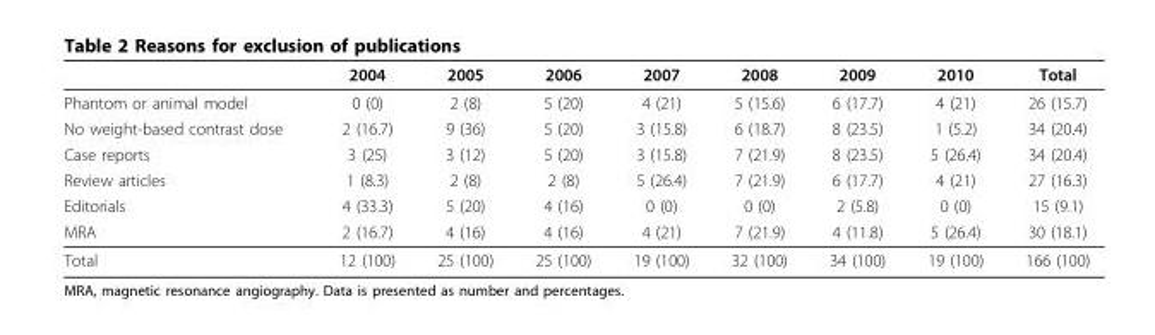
<table><thead><tr><td></td><td>2004</td><td>2005</td><td>2006</td><td>2007</td><td>2008</td><td>2009</td><td>2010</td><td>Total</td></tr></thead><tbody><tr><td>Phantom or animal model</td><td>0 (0)</td><td>2 (8)</td><td>5 (20)</td><td>4 (21)</td><td>5 (15.6)</td><td>6 (17.7)</td><td>4 (21)</td><td>26 (15.7)</td></tr><tr><td>No weight-based contrast dose</td><td>2 (16.7)</td><td>9 (36)</td><td>5 (20)</td><td>3 (15.8)</td><td>6 (18.7)</td><td>8 (23.5)</td><td>1 (5.2)</td><td>34 (20.4)</td></tr><tr><td>Case reports</td><td>3 (25)</td><td>3 (12)</td><td>5 (20)</td><td>3 (15.8)</td><td>7 (21.9)</td><td>8 (23.5)</td><td>5 (26.4)</td><td>34 (20.4)</td></tr><tr><td>Review articles</td><td>1 (8.3)</td><td>2 (8)</td><td>2 (8)</td><td>5 (26.4)</td><td>7 (21.9)</td><td>6 (17.7)</td><td>4 (21)</td><td>27 (16.3)</td></tr><tr><td>Editorials</td><td>4 (33.3)</td><td>5 (20)</td><td>4 (16)</td><td>0 (0)</td><td>0 (0)</td><td>2 (5.8)</td><td>0 (0)</td><td>15 (9.1)</td></tr><tr><td>MRA</td><td>2 (16.7)</td><td>4 (16)</td><td>4 (16)</td><td>4 (21)</td><td>7 (21.9)</td><td>4 (11.8)</td><td>5 (26.4)</td><td>30 (18.1)</td></tr><tr><td>Total</td><td>12 (100)</td><td>25 (100)</td><td>25 (100)</td><td>19 (100)</td><td>32 (100)</td><td>34 (100)</td><td>19 (100)</td><td>166 (100)</td></tr></tbody></table>